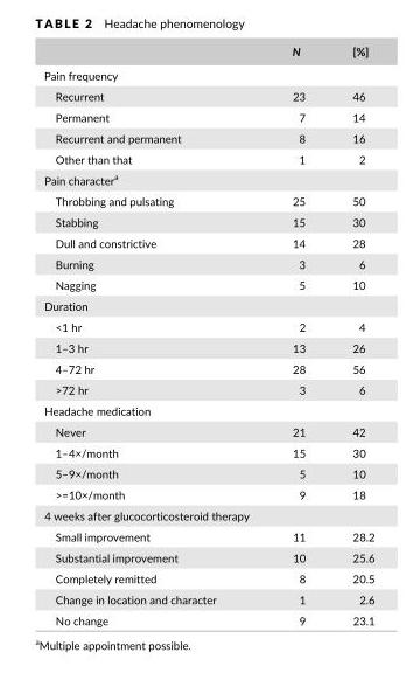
<table><thead><tr><td></td><td>N</td><td>[%]</td></tr></thead><tbody><tr><td colspan="3">Pain frequency</td></tr><tr><td>Recurrent</td><td>23</td><td>46</td></tr><tr><td>Permanent</td><td>7</td><td>14</td></tr><tr><td>Recurrent and permanent</td><td>8</td><td>16</td></tr><tr><td>Other than that</td><td>1</td><td>2</td></tr><tr><td colspan="3">Pain character<sup>a</sup></td></tr><tr><td>Throbbing and pulsating</td><td>25</td><td>50</td></tr><tr><td>Stabbing</td><td>15</td><td>30</td></tr><tr><td>Dull and constrictive</td><td>14</td><td>28</td></tr><tr><td>Burning</td><td>3</td><td>6</td></tr><tr><td>Nagging</td><td>5</td><td>10</td></tr><tr><td colspan="3">Duration</td></tr><tr><td>&lt;1 hr</td><td>2</td><td>4</td></tr><tr><td>1–3 hr</td><td>13</td><td>26</td></tr><tr><td>4–72 hr</td><td>28</td><td>56</td></tr><tr><td>&gt;72 hr</td><td>3</td><td>6</td></tr><tr><td colspan="3">Headache medication</td></tr><tr><td>Never</td><td>21</td><td>42</td></tr><tr><td>1–4×/month</td><td>15</td><td>30</td></tr><tr><td>5–9×/month</td><td>5</td><td>10</td></tr><tr><td>&gt;=10×/month</td><td>9</td><td>18</td></tr><tr><td colspan="3">4 weeks after glucocorticosteroid therapy</td></tr><tr><td>Small improvement</td><td>11</td><td>28.2</td></tr><tr><td>Substantial improvement</td><td>10</td><td>25.6</td></tr><tr><td>Completely remitted</td><td>8</td><td>20.5</td></tr><tr><td>Change in location and character</td><td>1</td><td>2.6</td></tr><tr><td>No change</td><td>9</td><td>23.1</td></tr></tbody></table>